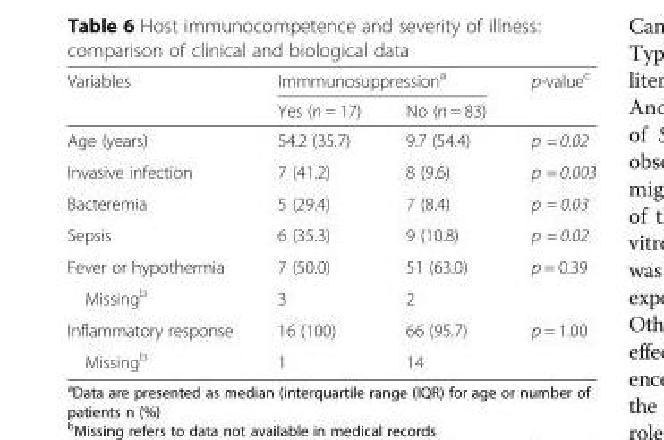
<table><thead><tr><td rowspan="2">Variables</td><td colspan="2">Immmunosuppression<sup>a</sup></td><td rowspan="2">p-value<sup>c</sup></td></tr><tr><td>Yes (n = 17)</td><td>No (n = 83)</td></tr></thead><tbody><tr><td>Age (years)</td><td>54.2 (35.7)</td><td>9.7 (54.4)</td><td>p = 0.02</td></tr><tr><td>Invasive infection</td><td>7 (41.2)</td><td>8 (9.6)</td><td>p = 0.003</td></tr><tr><td>Bacteremia</td><td>5 (29.4)</td><td>7 (8.4)</td><td>p = 0.03</td></tr><tr><td>Sepsis</td><td>6 (35.3)</td><td>9 (10.8)</td><td>p = 0.02</td></tr><tr><td>Fever or hypothermia</td><td>7 (50.0)</td><td>51 (63.0)</td><td>p = 0.39</td></tr><tr><td>Missing<sup>b</sup></td><td>3</td><td>2</td><td></td></tr><tr><td>Inflammatory response</td><td>16 (100)</td><td>66 (95.7)</td><td>p = 1.00</td></tr><tr><td>Missing<sup>b</sup></td><td>1</td><td>14</td><td></td></tr></tbody></table>